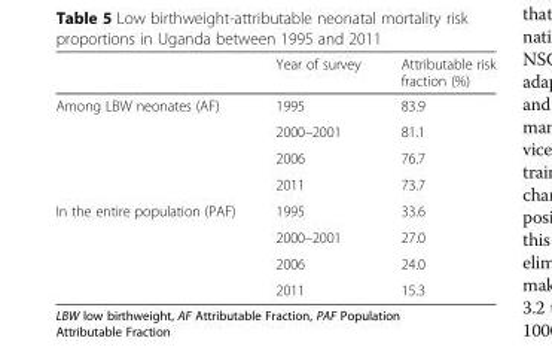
<table><thead><tr><td></td><td>Year of survey</td><td>Attributable risk fraction (%)</td></tr></thead><tbody><tr><td rowspan="4">Among LBW neonates (AF)</td><td>1995</td><td>83.9</td></tr><tr><td>2000–2001</td><td>81.1</td></tr><tr><td>2006</td><td>76.7</td></tr><tr><td>2011</td><td>73.7</td></tr><tr><td rowspan="4">In the entire population (PAF)</td><td>1995</td><td>33.6</td></tr><tr><td>2000–2001</td><td>27.0</td></tr><tr><td>2006</td><td>24.0</td></tr><tr><td>2011</td><td>15.3</td></tr></tbody></table>